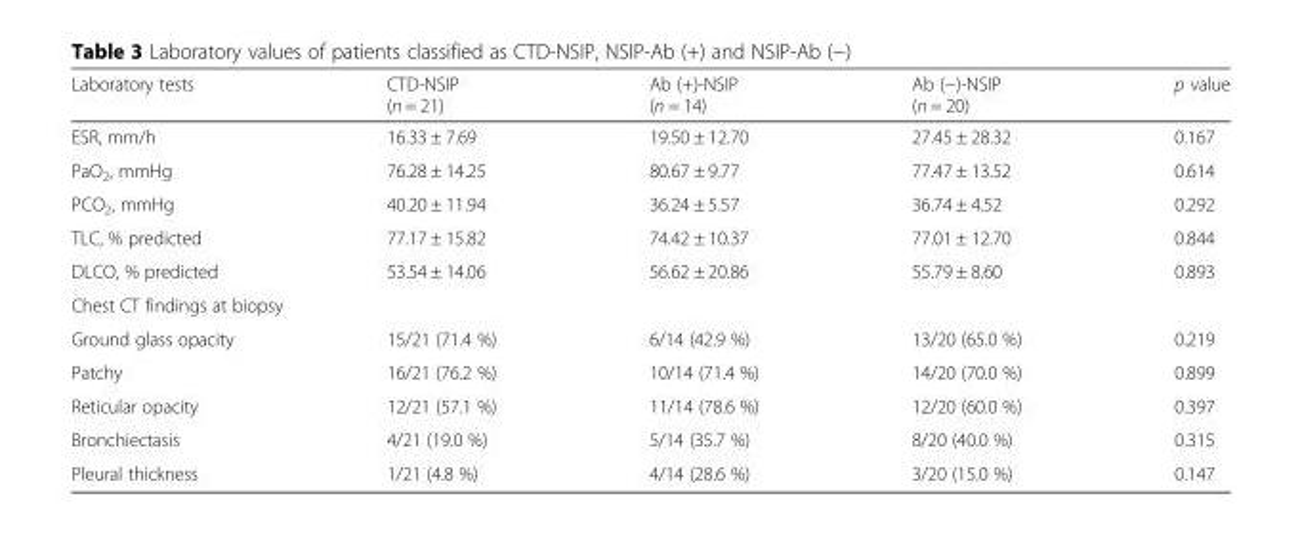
<table><thead><tr><td>Laboratory tests</td><td>CTD-NSIP (n = 21)</td><td>Ab (+)-NSIP (n = 14)</td><td>Ab (−)-NSIP (n = 20)</td><td>p value</td></tr></thead><tbody><tr><td>ESR, mm/h</td><td>16.33 ± 7.69</td><td>19.50 ± 12.70</td><td>27.45 ± 28.32</td><td>0.167</td></tr><tr><td>PaO<sub>2</sub>, mmHg</td><td>76.28 ± 14.25</td><td>80.67 ± 9.77</td><td>77.47 ± 13.52</td><td>0.614</td></tr><tr><td>PCO<sub>2</sub>, mmHg</td><td>40.20 ± 11.94</td><td>36.24 ± 5.57</td><td>36.74 ± 4.52</td><td>0.292</td></tr><tr><td>TLC, % predicted</td><td>77.17 ± 15.82</td><td>74.42 ± 10.37</td><td>77.01 ± 12.70</td><td>0.844</td></tr><tr><td>DLCO, % predicted</td><td>53.54 ± 14.06</td><td>56.62 ± 20.86</td><td>55.79 ± 8.60</td><td>0.893</td></tr><tr><td colspan="5">Chest CT findings at biopsy</td></tr><tr><td>Ground glass opacity</td><td>15/21 (71.4 %)</td><td>6/14 (42.9 %)</td><td>13/20 (65.0 %)</td><td>0.219</td></tr><tr><td>Patchy</td><td>16/21 (76.2 %)</td><td>10/14 (71.4 %)</td><td>14/20 (70.0 %)</td><td>0.899</td></tr><tr><td>Reticular opacity</td><td>12/21 (57.1 %)</td><td>11/14 (78.6 %)</td><td>12/20 (60.0 %)</td><td>0.397</td></tr><tr><td>Bronchiectasis</td><td>4/21 (19.0 %)</td><td>5/14 (35.7 %)</td><td>8/20 (40.0 %)</td><td>0.315</td></tr><tr><td>Pleural thickness</td><td>1/21 (4.8 %)</td><td>4/14 (28.6 %)</td><td>3/20 (15.0 %)</td><td>0.147</td></tr></tbody></table>